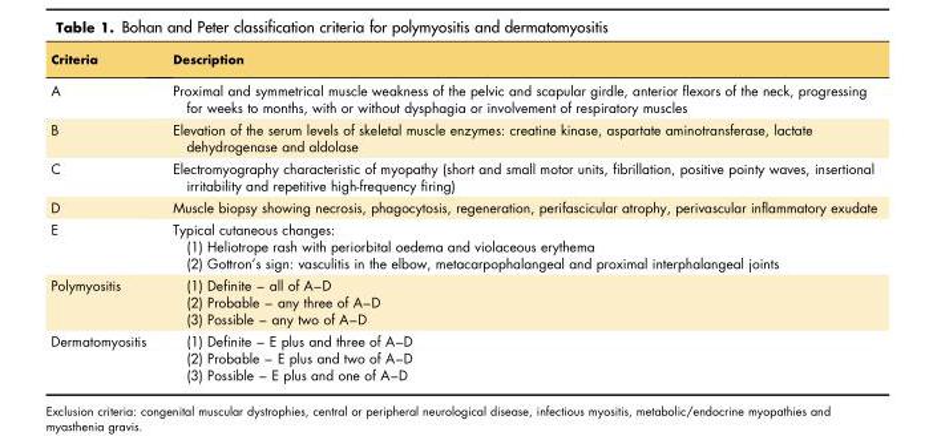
<table><thead><tr><td>Criteria</td><td>Description</td></tr></thead><tbody><tr><td>A</td><td>Proximal and symmetrical muscle weakness of the pelvic and scapular girdle, anterior flexors of the neck, progressing for weeks to months, with or without dysphagia or involvement of respiratory muscles</td></tr><tr><td>B</td><td>Elevation of the serum levels of skeletal muscle enzymes: creatine kinase, aspartate aminotransferase, lactate dehydrogenase and aldolase</td></tr><tr><td>C</td><td>Electromyography characteristic of myopathy (short and small motor units, fibrillation, positive pointy waves, insertional irritability and repetitive high-frequency firing)</td></tr><tr><td>D</td><td>Muscle biopsy showing necrosis, phagocytosis, regeneration, perifascicular atrophy, perivascular inflammatory exudate</td></tr><tr><td>E</td><td>Typical cutaneous changes: (1) Heliotrope rash with periorbital oedema and violaceous erythema (2) Gottron’s sign: vasculitis in the elbow, metacarpophalangeal and proximal interphalangeal joints</td></tr><tr><td>Polymyositis</td><td>(1) Definite – all of A–D (2) Probable – any three of A–D (3) Possible – any two of A–D</td></tr><tr><td>Dermatomyositis</td><td>(1) Definite – E plus and three of A–D (2) Probable – E plus and two of A–D (3) Possible – E plus and one of A–D</td></tr></tbody></table>